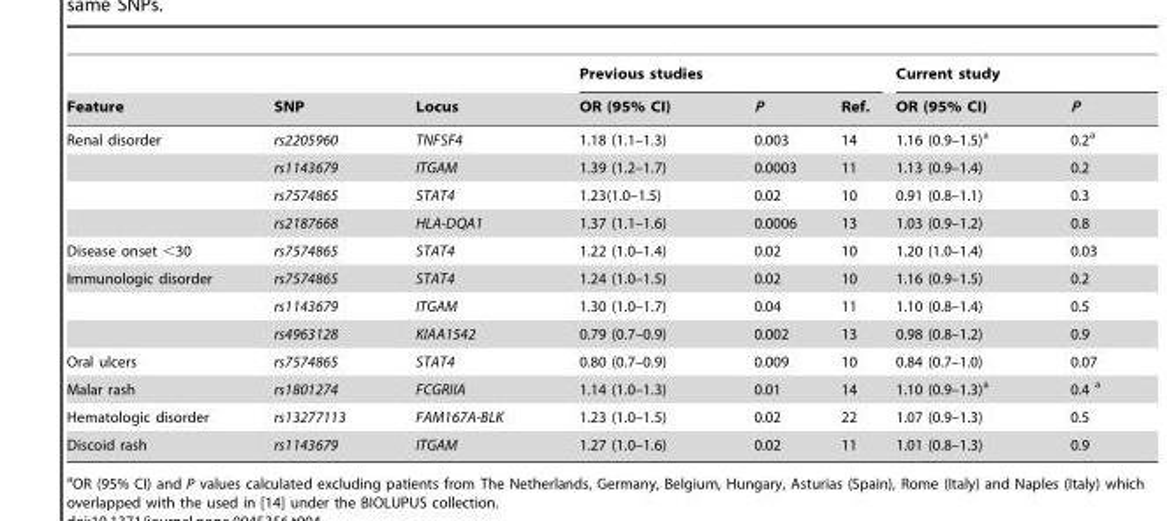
<table><thead><tr><td rowspan="2">Feature</td><td rowspan="2">SNP</td><td rowspan="2">Locus</td><td colspan="3">Previous studies</td><td colspan="2">Current study</td></tr><tr><td>OR (95% CI)</td><td>P</td><td>Ref.</td><td>OR (95% CI)</td><td>P</td></tr></thead><tbody><tr><td rowspan="4">Renal disorder</td><td>rs2205960</td><td>TNFSF4</td><td>1.18 (1.1–1.3)</td><td>0.003</td><td>14</td><td>1.16 (0.9–1.5)<sup>a</sup></td><td>0.2<sup>a</sup></td></tr><tr><td>rs1143679</td><td>ITGAM</td><td>1.39 (1.2–1.7)</td><td>0.0003</td><td>11</td><td>1.13 (0.9–1.4)</td><td>0.2</td></tr><tr><td>rs7574865</td><td>STAT4</td><td>1.23(1.0–1.5)</td><td>0.02</td><td>10</td><td>0.91 (0.8–1.1)</td><td>0.3</td></tr><tr><td>rs2187668</td><td>HLA-DQA1</td><td>1.37 (1.1–1.6)</td><td>0.0006</td><td>13</td><td>1.03 (0.9–1.2)</td><td>0.8</td></tr><tr><td>Disease onset &lt;30</td><td>rs7574865</td><td>STAT4</td><td>1.22 (1.0–1.4)</td><td>0.02</td><td>10</td><td>1.20 (1.0–1.4)</td><td>0.03</td></tr><tr><td rowspan="3">Immunologic disorder</td><td>rs7574865</td><td>STAT4</td><td>1.24 (1.0–1.5)</td><td>0.02</td><td>10</td><td>1.16 (0.9–1.5)</td><td>0.2</td></tr><tr><td>rs1143679</td><td>ITGAM</td><td>1.30 (1.0–1.7)</td><td>0.04</td><td>11</td><td>1.10 (0.8–1.4)</td><td>0.5</td></tr><tr><td>rs4963128</td><td>KIAA1542</td><td>0.79 (0.7–0.9)</td><td>0.002</td><td>13</td><td>0.98 (0.8–1.2)</td><td>0.9</td></tr><tr><td>Oral ulcers</td><td>rs7574865</td><td>STAT4</td><td>0.80 (0.7–0.9)</td><td>0.009</td><td>10</td><td>0.84 (0.7–1.0)</td><td>0.07</td></tr><tr><td>Malar rash</td><td>rs1801274</td><td>FCGRIIA</td><td>1.14 (1.0–1.3)</td><td>0.01</td><td>14</td><td>1.10 (0.9–1.3)<sup>a</sup></td><td>0.4 a</td></tr><tr><td>Hematologic disorder</td><td>rs13277113</td><td>FAM167A-BLK</td><td>1.23 (1.0–1.5)</td><td>0.02</td><td>22</td><td>1.07 (0.9–1.3)</td><td>0.5</td></tr><tr><td>Discoid rash</td><td>rs1143679</td><td>ITGAM</td><td>1.27 (1.0–1.6)</td><td>0.02</td><td>11</td><td>1.01 (0.8–1.3)</td><td>0.9</td></tr></tbody></table>